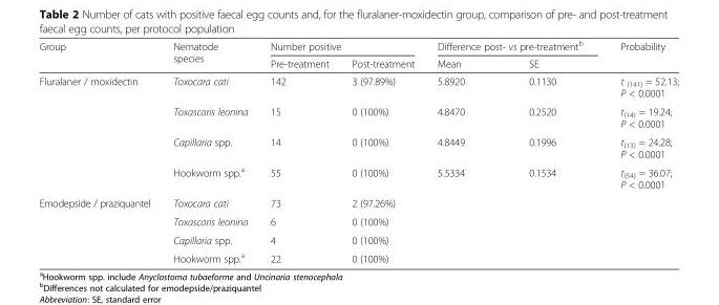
<table><thead><tr><td rowspan="2">Group</td><td rowspan="2">Nematode species</td><td colspan="2">Number positive</td><td colspan="2">Difference post- vs pre-treatment<sup>b</sup></td><td rowspan="2">Probability</td></tr><tr><td>Pre-treatment</td><td>Post-treatment</td><td>Mean</td><td>SE</td></tr></thead><tbody><tr><td rowspan="4">Fluralaner / moxidectin</td><td>Toxocara cati</td><td>142</td><td>3 (97.89%)</td><td>5.8920</td><td>0.1130</td><td>t <sub>(141)</sub> = 52.13; P &lt; 0.0001</td></tr><tr><td>Toxascaris leonina</td><td>15</td><td>0 (100%)</td><td>4.8470</td><td>0.2520</td><td>t<sub>(14)</sub> = 19.24; P &lt; 0.0001</td></tr><tr><td>Capillaria spp.</td><td>14</td><td>0 (100%)</td><td>4.8449</td><td>0.1996</td><td>t<sub>(13)</sub> = 24.28; P &lt; 0.0001</td></tr><tr><td>Hookworm spp.<sup>a</sup></td><td>55</td><td>0 (100%)</td><td>5.5334</td><td>0.1534</td><td>t<sub>(54)</sub> = 36.07; P &lt; 0.0001</td></tr><tr><td rowspan="4">Emodepside / praziquantel</td><td>Toxocara cati</td><td>73</td><td>2 (97.26%)</td><td rowspan="4" colspan="3"></td></tr><tr><td>Toxascaris leonina</td><td>6</td><td>0 (100%)</td></tr><tr><td>Capillaria spp.</td><td>4</td><td>0 (100%)</td></tr><tr><td>Hookworm spp.<sup>a</sup></td><td>22</td><td>0 (100%)</td></tr></tbody></table>